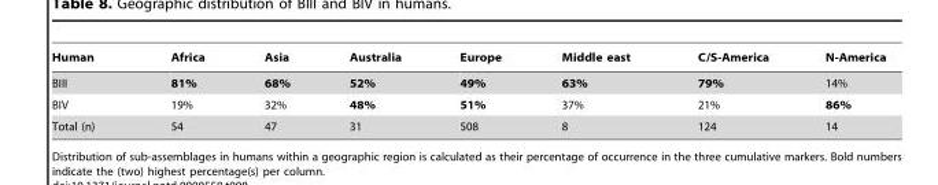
<table><thead><tr><td>Human</td><td>Africa</td><td>Asia</td><td>Australia</td><td>Europe</td><td>Middle east</td><td>C/S-America</td><td>N-America</td></tr></thead><tbody><tr><td>BIII</td><td>81%</td><td>68%</td><td>52%</td><td>49%</td><td>63%</td><td>79%</td><td>14%</td></tr><tr><td>BIV</td><td>19%</td><td>32%</td><td>48%</td><td>51%</td><td>37%</td><td>21%</td><td>86%</td></tr><tr><td>Total (n)</td><td>54</td><td>47</td><td>31</td><td>508</td><td>8</td><td>124</td><td>14</td></tr></tbody></table>